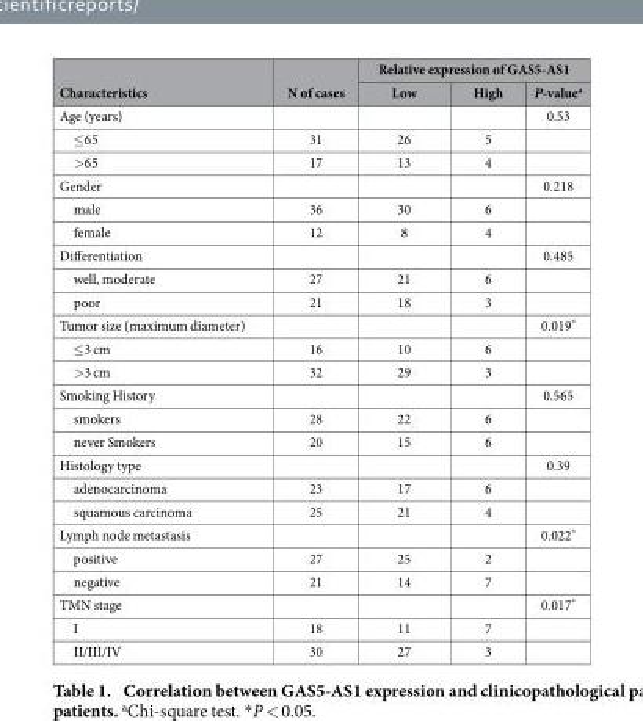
<table><thead><tr><td rowspan="2">Characteristics</td><td rowspan="2">N of cases</td><td colspan="3">Relative expression of GAS5-AS1</td></tr><tr><td>Low</td><td>High</td><td>P-value<sup>a</sup></td></tr></thead><tbody><tr><td>Age (years)</td><td></td><td></td><td></td><td>0.53</td></tr><tr><td>≤ 65</td><td>31</td><td>26</td><td>5</td><td></td></tr><tr><td>&gt; 65</td><td>17</td><td>13</td><td>4</td><td></td></tr><tr><td>Gender</td><td></td><td></td><td></td><td>0.218</td></tr><tr><td>male</td><td>36</td><td>30</td><td>6</td><td></td></tr><tr><td>female</td><td>12</td><td>8</td><td>4</td><td></td></tr><tr><td>Differentiation</td><td></td><td></td><td></td><td>0.485</td></tr><tr><td>well, moderate</td><td>27</td><td>21</td><td>6</td><td></td></tr><tr><td>poor</td><td>21</td><td>18</td><td>3</td><td></td></tr><tr><td>Tumor size (maximum diameter)</td><td></td><td></td><td></td><td>0.019*</td></tr><tr><td>≤ 3 cm</td><td>16</td><td>10</td><td>6</td><td></td></tr><tr><td>&gt; 3 cm</td><td>32</td><td>29</td><td>3</td><td></td></tr><tr><td>Smoking History</td><td></td><td></td><td></td><td>0.565</td></tr><tr><td>smokers</td><td>28</td><td>22</td><td>6</td><td></td></tr><tr><td>never Smokers</td><td>20</td><td>15</td><td>6</td><td></td></tr><tr><td>Histology type</td><td></td><td></td><td></td><td>0.39</td></tr><tr><td>adenocarcinoma</td><td>23</td><td>17</td><td>6</td><td></td></tr><tr><td>squamous carcinoma</td><td>25</td><td>21</td><td>4</td><td></td></tr><tr><td>Lymph node metastasis</td><td></td><td></td><td></td><td>0.022*</td></tr><tr><td>positive</td><td>27</td><td>25</td><td>2</td><td></td></tr><tr><td>negative</td><td>21</td><td>14</td><td>7</td><td></td></tr><tr><td>TMN stage</td><td></td><td></td><td></td><td>0.017*</td></tr><tr><td>I</td><td>18</td><td>11</td><td>7</td><td></td></tr><tr><td>II/III/IV</td><td>30</td><td>27</td><td>3</td><td></td></tr></tbody></table>